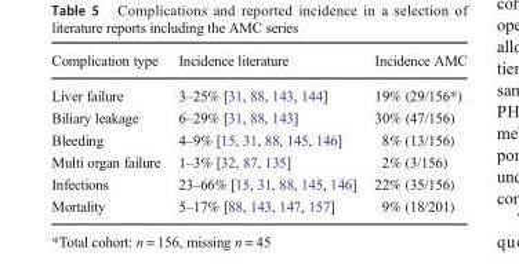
<table><thead><tr><td>Complication type</td><td>Incidence literature</td><td>Incidence AMC</td></tr></thead><tbody><tr><td>Liver failure</td><td>3–25% [31, 88, 143, 144]</td><td>19% (29/156*)</td></tr><tr><td>Biliary leakage</td><td>6–29% [31, 88, 143]</td><td>30% (47/156)</td></tr><tr><td>Bleeding</td><td>4–9% [15, 31, 88, 145, 146]</td><td>8% (13/156)</td></tr><tr><td>Multi organ failure</td><td>1–3% [32, 87, 135]</td><td>2% (3/156)</td></tr><tr><td>Infections</td><td>23–66% [15, 31, 88, 145, 146]</td><td>22% (35/156)</td></tr><tr><td>Mortality</td><td>5–17% [88, 143, 147, 157]</td><td>9% (18/201)</td></tr></tbody></table>